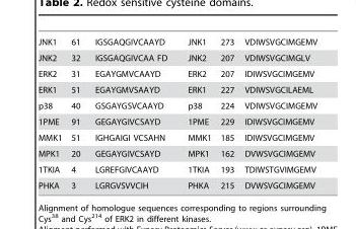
<table><tbody><tr><td>JNK1</td><td>61</td><td>IGSGAQGIVCAAYD</td><td>JNK1</td><td>273</td><td>VDIWSVGCIMGEMV</td></tr><tr><td>JNK2</td><td>32</td><td>IGSGAQGIVCAA FD</td><td>JNK2</td><td>207</td><td>VDIWSVGCIMGLV</td></tr><tr><td>ERK2</td><td>31</td><td>EGAYGMVCAAYD</td><td>ERK2</td><td>207</td><td>IDIWSVGCIMGEMV</td></tr><tr><td>ERK1</td><td>51</td><td>EGAYGMVSAAYD</td><td>ERK1</td><td>227</td><td>VDIWSVGCILAEML</td></tr><tr><td>p38</td><td>40</td><td>GSGAYGSVCAAYD</td><td>p38</td><td>224</td><td>VDIWSVGCIMGEMV</td></tr><tr><td>1PME</td><td>91</td><td>GEGAYGIVCSAYD</td><td>1PME</td><td>229</td><td>IDIWSVGCIMGEMV</td></tr><tr><td>MMK1</td><td>51</td><td>IGHGAIGI VCSAHN</td><td>MMK1</td><td>185</td><td>IDIWSVGCIMGEMV</td></tr><tr><td>MPK1</td><td>20</td><td>GEGAYGIVCSAYD</td><td>MPK1</td><td>162</td><td>DVWSVGCIMGEMV</td></tr><tr><td>1TKIA</td><td>4</td><td>LGREFGIVCAAYD</td><td>1TKIA</td><td>193</td><td>TDIWSTGVIMGEMV</td></tr><tr><td>PHKA</td><td>3</td><td>LGRGVSVVCIH</td><td>PHKA</td><td>215</td><td>DVWSVGCIMGEMV</td></tr></tbody></table>